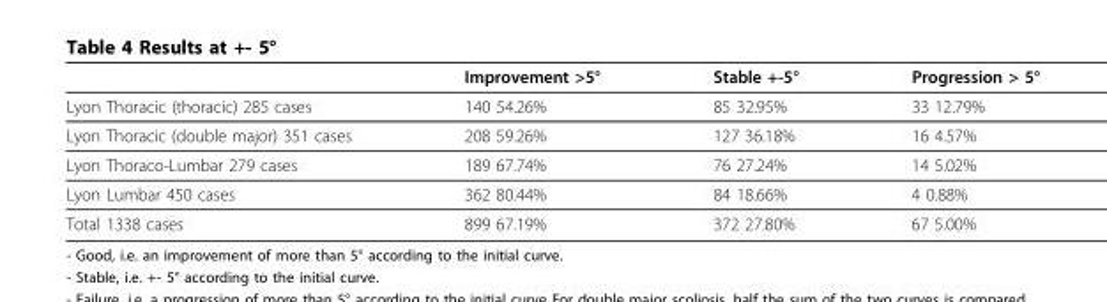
<table><thead><tr><td></td><td>Improvement &gt;5°</td><td>Stable +-5°</td><td>Progression &gt; 5°</td></tr></thead><tbody><tr><td>Lyon Thoracic (thoracic) 285 cases</td><td>140 54.26%</td><td>85 32.95%</td><td>33 12.79%</td></tr><tr><td>Lyon Thoracic (double major) 351 cases</td><td>208 59.26%</td><td>127 36.18%</td><td>16 4.57%</td></tr><tr><td>Lyon Thoraco-Lumbar 279 cases</td><td>189 67.74%</td><td>76 27.24%</td><td>14 5.02%</td></tr><tr><td>Lyon Lumbar 450 cases</td><td>362 80.44%</td><td>84 18.66%</td><td>4 0.88%</td></tr><tr><td>Total 1338 cases</td><td>899 67.19%</td><td>372 27.80%</td><td>67 5.00%</td></tr></tbody></table>